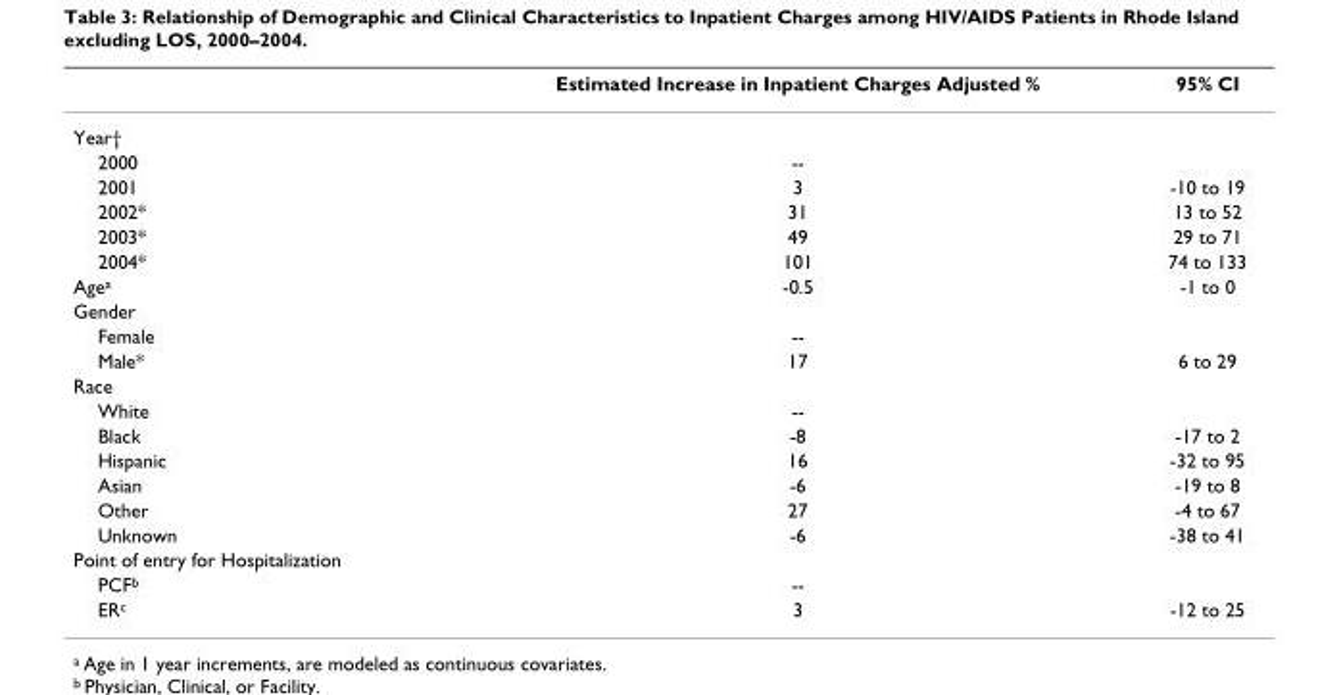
<table><thead><tr><td></td><td>Estimated Increase in Inpatient Charges Adjusted %</td><td>95% CI</td></tr></thead><tbody><tr><td colspan="3">Year†</td></tr><tr><td>2000</td><td>--</td><td></td></tr><tr><td>2001</td><td>3</td><td>-10 to 19</td></tr><tr><td>2002*</td><td>31</td><td>13 to 52</td></tr><tr><td>2003*</td><td>49</td><td>29 to 71</td></tr><tr><td>2004*</td><td>101</td><td>74 to 133</td></tr><tr><td>Age<sup>a</sup></td><td>-0.5</td><td>-1 to 0</td></tr><tr><td colspan="3">Gender</td></tr><tr><td>Female</td><td>--</td><td></td></tr><tr><td>Male*</td><td>17</td><td>6 to 29</td></tr><tr><td colspan="3">Race</td></tr><tr><td>White</td><td>--</td><td></td></tr><tr><td>Black</td><td>-8</td><td>-17 to 2</td></tr><tr><td>Hispanic</td><td>16</td><td>-32 to 95</td></tr><tr><td>Asian</td><td>-6</td><td>-19 to 8</td></tr><tr><td>Other</td><td>27</td><td>-4 to 67</td></tr><tr><td>Unknown</td><td>-6</td><td>-38 to 41</td></tr><tr><td colspan="3">Point of entry for Hospitalization</td></tr><tr><td>PCF<sup>b</sup></td><td>--</td><td></td></tr><tr><td>ER<sup>c</sup></td><td>3</td><td>-12 to 25</td></tr></tbody></table>